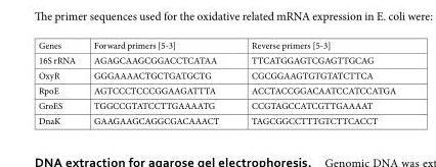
<table><tbody><tr><td>Genes</td><td>Forward primers [5-3]</td><td>Reverse primers [5-3]</td></tr><tr><td>16S rRNA</td><td>AGAGCAAGCGGACCTCATAA</td><td>TTCATGGAGTCGAGTTGCAG</td></tr><tr><td>OxyR</td><td>GGGAAAACTGCTGATGCTG</td><td>CGCGGAAGTGTGTATCTTCA</td></tr><tr><td>RpoE</td><td>AGTCCCTCCCGGAAGATTTA</td><td>ACCTACCGGACAATCCATCCATGA</td></tr><tr><td>GroES</td><td>TGGCCGTATCCTTGAAAATG</td><td>CCGTAGCCATCGTTGAAAAT</td></tr><tr><td>DnaK</td><td>GAAGAAGCAGGCGACAAACT</td><td>TAGCGGCCTTTGTCTTCACCT</td></tr></tbody></table>